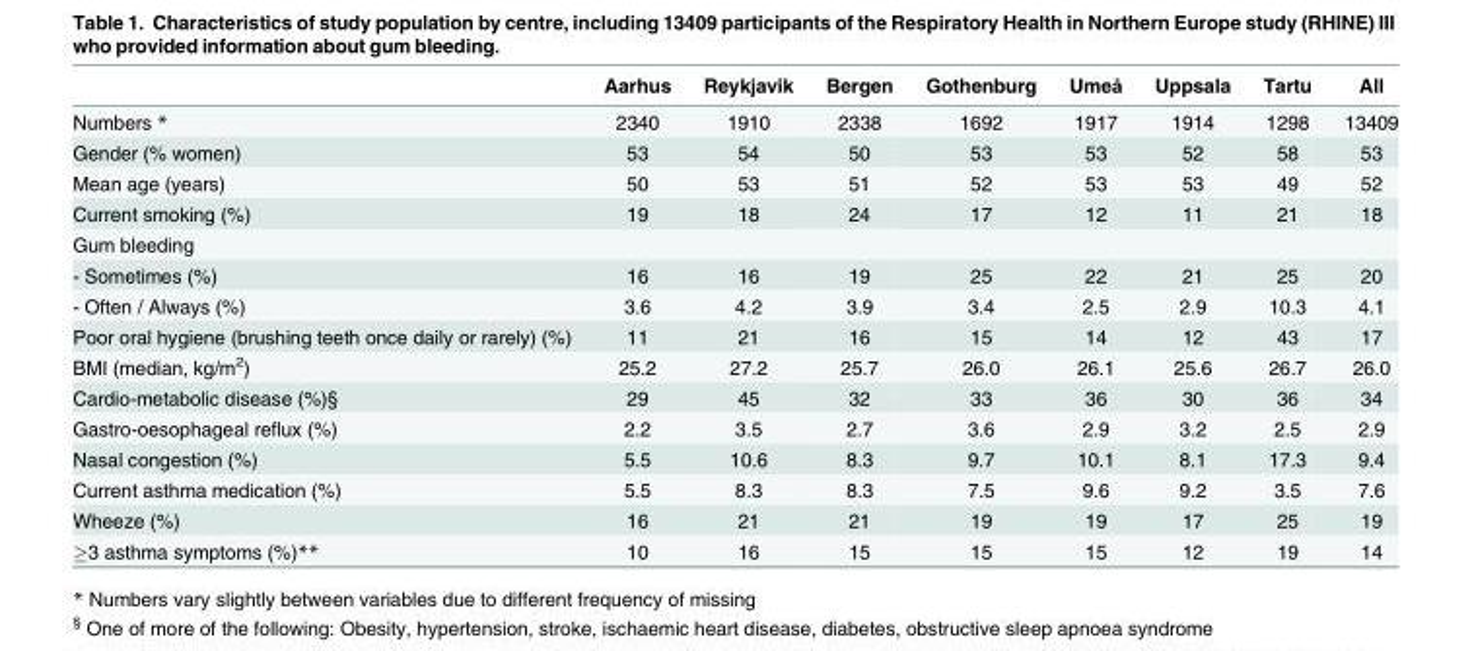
<table><thead><tr><td></td><td>Aarhus</td><td>Reykjavik</td><td>Bergen</td><td>Gothenburg</td><td>Umeå</td><td>Uppsala</td><td>Tartu</td><td>All</td></tr></thead><tbody><tr><td>Numbers *</td><td>2340</td><td>1910</td><td>2338</td><td>1692</td><td>1917</td><td>1914</td><td>1298</td><td>13409</td></tr><tr><td>Gender (% women)</td><td>53</td><td>54</td><td>50</td><td>53</td><td>53</td><td>52</td><td>58</td><td>53</td></tr><tr><td>Mean age (years)</td><td>50</td><td>53</td><td>51</td><td>52</td><td>53</td><td>53</td><td>49</td><td>52</td></tr><tr><td>Current smoking (%)</td><td>19</td><td>18</td><td>24</td><td>17</td><td>12</td><td>11</td><td>21</td><td>18</td></tr><tr><td colspan="9">Gum bleeding</td></tr><tr><td>- Sometimes (%)</td><td>16</td><td>16</td><td>19</td><td>25</td><td>22</td><td>21</td><td>25</td><td>20</td></tr><tr><td>- Often / Always (%)</td><td>3.6</td><td>4.2</td><td>3.9</td><td>3.4</td><td>2.5</td><td>2.9</td><td>10.3</td><td>4.1</td></tr><tr><td>Poor oral hygiene (brushing teeth once daily or rarely) (%)</td><td>11</td><td>21</td><td>16</td><td>15</td><td>14</td><td>12</td><td>43</td><td>17</td></tr><tr><td>BMI (median, kg/m<sup>2</sup>)</td><td>25.2</td><td>27.2</td><td>25.7</td><td>26.0</td><td>26.1</td><td>25.6</td><td>26.7</td><td>26.0</td></tr><tr><td>Cardio-metabolic disease (%)§</td><td>29</td><td>45</td><td>32</td><td>33</td><td>36</td><td>30</td><td>36</td><td>34</td></tr><tr><td>Gastro-oesophageal reflux (%)</td><td>2.2</td><td>3.5</td><td>2.7</td><td>3.6</td><td>2.9</td><td>3.2</td><td>2.5</td><td>2.9</td></tr><tr><td>Nasal congestion (%)</td><td>5.5</td><td>10.6</td><td>8.3</td><td>9.7</td><td>10.1</td><td>8.1</td><td>17.3</td><td>9.4</td></tr><tr><td>Current asthma medication (%)</td><td>5.5</td><td>8.3</td><td>8.3</td><td>7.5</td><td>9.6</td><td>9.2</td><td>3.5</td><td>7.6</td></tr><tr><td>Wheeze (%)</td><td>16</td><td>21</td><td>21</td><td>19</td><td>19</td><td>17</td><td>25</td><td>19</td></tr><tr><td>≥3 asthma symptoms (%)**</td><td>10</td><td>16</td><td>15</td><td>15</td><td>15</td><td>12</td><td>19</td><td>14</td></tr></tbody></table>